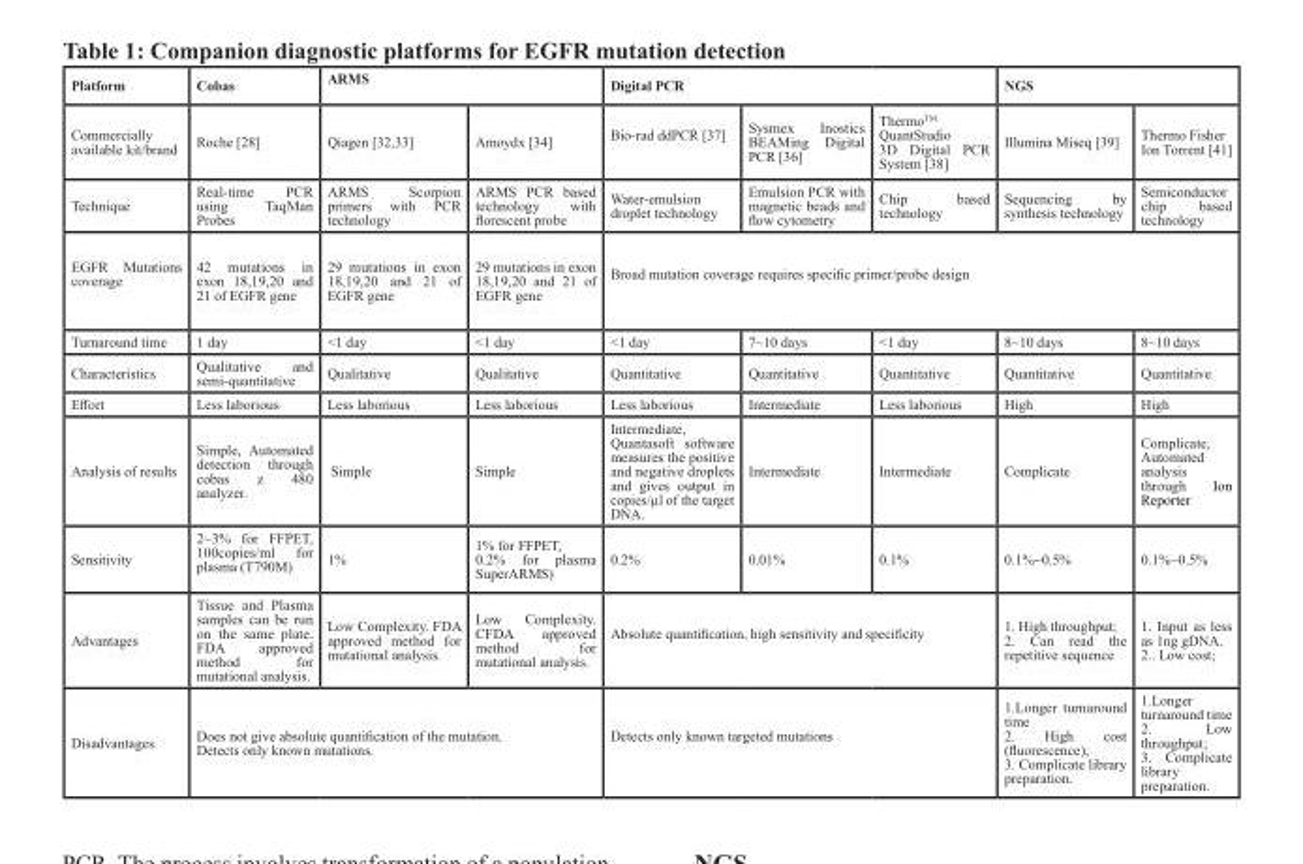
<table><thead><tr><td rowspan="2">Platform Commercially available kit/brand</td><td rowspan="2">Cobas Roche [28]</td><td colspan="2">ARMS</td><td colspan="3">Digital PCR</td><td colspan="2">NGS</td></tr><tr><td>Qiagen [32,33]</td><td>Amoydx [34]</td><td>Bio-rad ddPCR [37]</td><td>Sysmex Inostics BEAMing Digital PCR [36]</td><td>Thermo<sup>TM</sup> QuantStudio 3D Digital PCR System [38]</td><td>Illumina Miseq [39]</td><td>Thermo Fisher Ion Torrent [41]</td></tr></thead><tbody><tr><td>Technique</td><td>Real-time PCR using TaqMan Probes</td><td>ARMS Scorpion primers with PCR technology</td><td>ARMS PCR based technology with florescent probe</td><td>Water-emulsion droplet technology</td><td>Emulsion PCR with magnetic beads and flow cytometry</td><td>Chip based technology</td><td>Sequencing by synthesis technology</td><td>Semiconductor chip based technology</td></tr><tr><td>EGFR Mutations coverage</td><td>42 mutations in exon 18,19,20 and 21 of EGFR gene</td><td>29 mutations in exon 18,19,20 and 21 of EGFR gene</td><td>29 mutations in exon 18,19,20 and 21 of EGFR gene</td><td colspan="5">Broad mutation coverage requires specific primer/probe design</td></tr><tr><td>Turnaround time</td><td>1 day</td><td>&lt;1 day</td><td>&lt;1 day</td><td>&lt;1 day</td><td>7~10 days</td><td>&lt;1 day</td><td>8~10 days</td><td>8~10 days</td></tr><tr><td>Characteristics</td><td>Qualitative and semi-quantitative</td><td>Qualitative</td><td>Qualitative</td><td>Quantitative</td><td>Quantitative</td><td>Quantitative</td><td>Quantitative</td><td>Quantitative</td></tr><tr><td>Effort</td><td>Less laborious</td><td>Less laborious</td><td>Less laborious</td><td>Less laborious</td><td>Intermediate</td><td>Less laborious</td><td>High</td><td>High</td></tr><tr><td>Analysis of results</td><td>Simple, Automated detection through cobas z 480 analyzer.</td><td>Simple</td><td>Simple</td><td>Intermediate, Quantasoft software measures the positive and negative droplets and gives output in copies/µl of the target DNA.</td><td>Intermediate</td><td>Intermediate</td><td>Complicate</td><td>Complicate, Automated analysis through Ion Reporter</td></tr><tr><td>Sensitivity</td><td>2~3% for FFPET, 100copies/ml for plasma (T790M)</td><td>1%</td><td>1% for FFPET, 0.2% for plasma SuperARMS)</td><td>0.2%</td><td>0.01%</td><td>0.1%</td><td>0.1%~0.5%</td><td>0.1%~0.5%</td></tr><tr><td>Advantages</td><td>Tissue and Plasma samples can be run on the same plate. FDA approved method for mutational analysis.</td><td>Low Complexity. FDA approved method for mutational analysis.</td><td>Low Complexity. CFDA approved method for mutational analysis.</td><td colspan="3">Absolute quantification, high sensitivity and specificity</td><td>1. High throughput; 2. Can read the repetitive sequence</td><td>1. Input as less as 1ng gDNA. 2.. Low cost;</td></tr><tr><td>Disadvantages</td><td colspan="3">Does not give absolute quantification of the mutation. Detects only known mutations.</td><td colspan="3">Detects only known targeted mutations</td><td>1.Longer turnaround time 2. High cost (fluorescence); 3. Complicate library preparation.</td><td>1.Longer turnaround time 2. Low throughput; 3. Complicate library preparation.</td></tr></tbody></table>